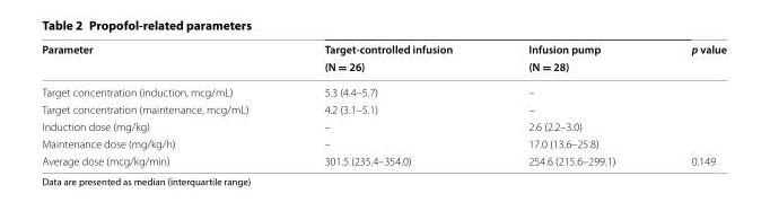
<table><thead><tr><td rowspan="2">Parameter</td><td rowspan="2">Target-controlled infusion (N = 26)</td><td rowspan="2">Infusion pump (N = 28)</td><td rowspan="2">p value</td></tr><tr></tr></thead><tbody><tr><td>Target concentration (induction, mcg/mL)</td><td>5.3 (4.4–5.7)</td><td>–</td><td></td></tr><tr><td>Target concentration (maintenance, mcg/mL)</td><td>4.2 (3.1–5.1)</td><td>–</td><td></td></tr><tr><td>Induction dose (mg/kg)</td><td>–</td><td>2.6 (2.2–3.0)</td><td></td></tr><tr><td>Maintenance dose (mg/kg/h)</td><td>–</td><td>17.0 (13.6–25.8)</td><td></td></tr><tr><td>Average dose (mcg/kg/min)</td><td>301.5 (235.4–354.0)</td><td>254.6 (215.6–299.1)</td><td>0.149</td></tr></tbody></table>